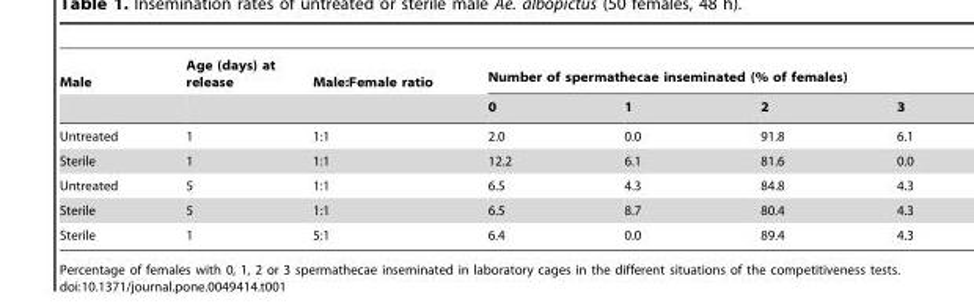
<table><thead><tr><td rowspan="2">Male</td><td rowspan="2">Age (days) at release</td><td rowspan="2">Male:Female ratio</td><td colspan="4">Number of spermathecae inseminated (% of females)</td></tr><tr><td>0</td><td>1</td><td>2</td><td>3</td></tr></thead><tbody><tr><td>Untreated</td><td>1</td><td>1:1</td><td>2.0</td><td>0.0</td><td>91.8</td><td>6.1</td></tr><tr><td>Sterile</td><td>1</td><td>1:1</td><td>12.2</td><td>6.1</td><td>81.6</td><td>0.0</td></tr><tr><td>Untreated</td><td>5</td><td>1:1</td><td>6.5</td><td>4.3</td><td>84.8</td><td>4.3</td></tr><tr><td>Sterile</td><td>5</td><td>1:1</td><td>6.5</td><td>8.7</td><td>80.4</td><td>4.3</td></tr><tr><td>Sterile</td><td>1</td><td>5:1</td><td>6.4</td><td>0.0</td><td>89.4</td><td>4.3</td></tr></tbody></table>